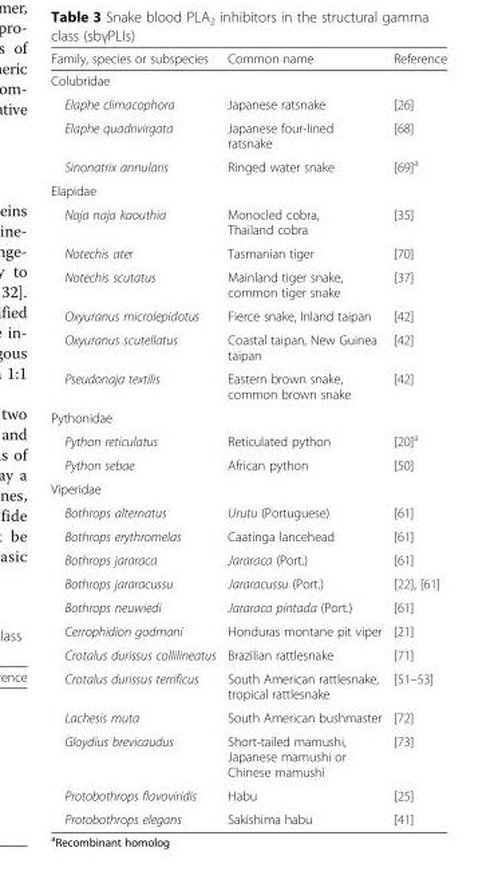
<table><thead><tr><td>Family, species or subspecies</td><td>Common name</td><td>Reference</td></tr></thead><tbody><tr><td colspan="3">Colubridae</td></tr><tr><td>Elaphe climacophora</td><td>Japanese ratsnake</td><td>[26]</td></tr><tr><td>Elaphe quadrivirgata</td><td>Japanese four-lined ratsnake</td><td>[68]</td></tr><tr><td>Sinonatrix annularis</td><td>Ringed water snake</td><td>[69]<sup>a</sup></td></tr><tr><td colspan="3">Elapidae</td></tr><tr><td>Naja naja kaouthia</td><td>Monocled cobra, Thailand cobra</td><td>[35]</td></tr><tr><td>Notechis ater</td><td>Tasmanian tiger</td><td>[70]</td></tr><tr><td>Notechis scutatus</td><td>Mainland tiger snake, common tiger snake</td><td>[37]</td></tr><tr><td>Oxyuranus microlepidotus</td><td>Fierce snake, Inland taipan</td><td>[42]</td></tr><tr><td>Oxyuranus scutellatus</td><td>Coastal taipan, New Guinea taipan</td><td>[42]</td></tr><tr><td>Pseudonaja textilis</td><td>Eastern brown snake, common brown snake</td><td>[42]</td></tr><tr><td colspan="3">Pythonidae</td></tr><tr><td>Python reticulatus</td><td>Reticulated python</td><td>[20]<sup>a</sup></td></tr><tr><td>Python sebae</td><td>African python</td><td>[50]</td></tr><tr><td colspan="3">Viperidae</td></tr><tr><td>Bothrops alternatus</td><td>Urutu (Portuguese)</td><td>[61]</td></tr><tr><td>Bothrops erythromelas</td><td>Caatinga lancehead</td><td>[61]</td></tr><tr><td>Bothrops jararaca</td><td>Jararaca (Port.)</td><td>[61]</td></tr><tr><td>Bothrops jararacussu</td><td>Jararacussu (Port.)</td><td>[22], [61]</td></tr><tr><td>Bothrops neuwiedi</td><td>Jararaca pintada (Port.)</td><td>[61]</td></tr><tr><td>Cerrophidion godmani</td><td>Honduras montane pit viper</td><td>[21]</td></tr><tr><td>Crotalus durissus collilineatus</td><td>Brazilian rattlesnake</td><td>[71]</td></tr><tr><td>Crotalus durissus terrificus</td><td>South American rattlesnake, tropical rattlesnake</td><td>[51–53]</td></tr><tr><td>Lachesis muta</td><td>South American bushmaster</td><td>[72]</td></tr><tr><td>Gloydius brevicaudus</td><td>Short-tailed mamushi, Japanese mamushi or Chinese mamushi</td><td>[73]</td></tr><tr><td>Protobothrops flavoviridis</td><td>Habu</td><td>[25]</td></tr><tr><td>Protobothrops elegans</td><td>Sakishima habu</td><td>[41]</td></tr></tbody></table>